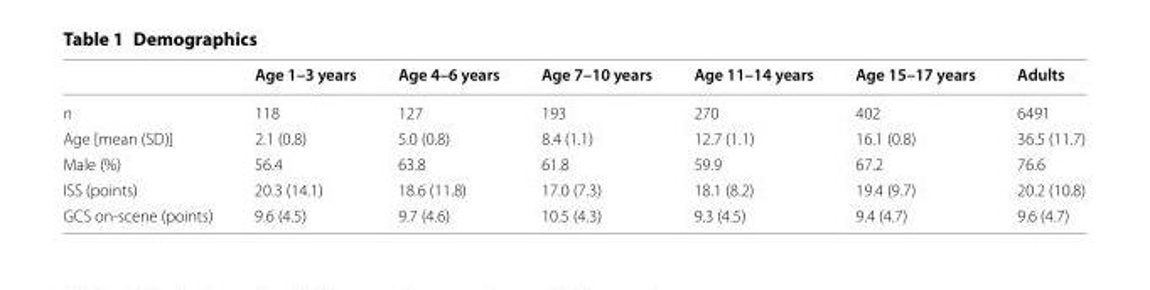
<table><thead><tr><td></td><td>Age 1–3 years</td><td>Age 4–6 years</td><td>Age 7–10 years</td><td>Age 11–14 years</td><td>Age 15–17 years</td><td>Adults</td></tr></thead><tbody><tr><td>n</td><td>118</td><td>127</td><td>193</td><td>270</td><td>402</td><td>6491</td></tr><tr><td>Age [mean (SD)]</td><td>2.1 (0.8)</td><td>5.0 (0.8)</td><td>8.4 (1.1)</td><td>12.7 (1.1)</td><td>16.1 (0.8)</td><td>36.5 (11.7)</td></tr><tr><td>Male (%)</td><td>56.4</td><td>63.8</td><td>61.8</td><td>59.9</td><td>67.2</td><td>76.6</td></tr><tr><td>ISS (points)</td><td>20.3 (14.1)</td><td>18.6 (11.8)</td><td>17.0 (7.3)</td><td>18.1 (8.2)</td><td>19.4 (9.7)</td><td>20.2 (10.8)</td></tr><tr><td>GCS on‑scene (points)</td><td>9.6 (4.5)</td><td>9.7 (4.6)</td><td>10.5 (4.3)</td><td>9.3 (4.5)</td><td>9.4 (4.7)</td><td>9.6 (4.7)</td></tr></tbody></table>